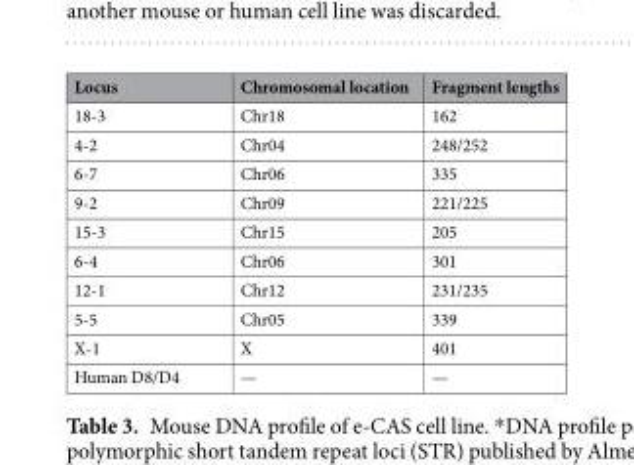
<table><thead><tr><td>Locus</td><td>Chromosomal location</td><td>Fragment lengths</td></tr></thead><tbody><tr><td>18-3</td><td>Chr18</td><td>162</td></tr><tr><td>4-2</td><td>Chr04</td><td>248/252</td></tr><tr><td>6-7</td><td>Chr06</td><td>335</td></tr><tr><td>9-2</td><td>Chr09</td><td>221/225</td></tr><tr><td>15-3</td><td>Chr15</td><td>205</td></tr><tr><td>6-4</td><td>Chr06</td><td>301</td></tr><tr><td>12-1</td><td>Chr12</td><td>231/235</td></tr><tr><td>5-5</td><td>Chr05</td><td>339</td></tr><tr><td>X-1</td><td>X</td><td>401</td></tr><tr><td>Human D8/D4</td><td>—</td><td>—</td></tr></tbody></table>